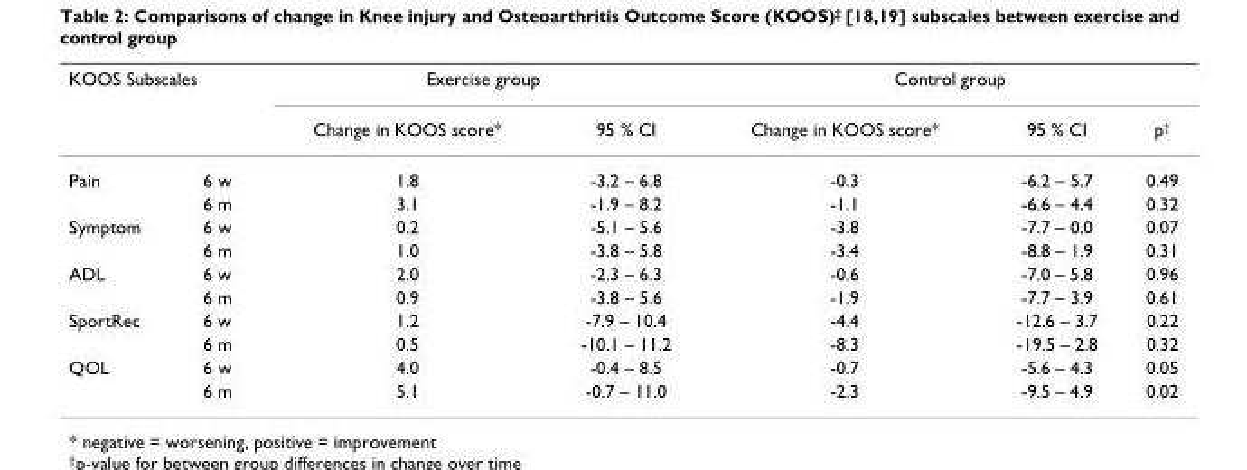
<table><thead><tr><td colspan="2">KOOS Subscales</td><td colspan="2">Exercise group</td><td colspan="3">Control group</td></tr><tr><td></td><td></td><td>Change in KOOS score*</td><td>95 % CI</td><td>Change in KOOS score*</td><td>95 % CI</td><td>p<sup>†</sup></td></tr></thead><tbody><tr><td rowspan="2">Pain</td><td>6 w</td><td>1.8</td><td>-3.2 – 6.8</td><td>-0.3</td><td>-6.2 – 5.7</td><td>0.49</td></tr><tr><td>6 m</td><td>3.1</td><td>-1.9 – 8.2</td><td>-1.1</td><td>-6.6 – 4.4</td><td>0.32</td></tr><tr><td rowspan="2">Symptom</td><td>6 w</td><td>0.2</td><td>-5.1 – 5.6</td><td>-3.8</td><td>-7.7 – 0.0</td><td>0.07</td></tr><tr><td>6 m</td><td>1.0</td><td>-3.8 – 5.8</td><td>-3.4</td><td>-8.8 – 1.9</td><td>0.31</td></tr><tr><td rowspan="2">ADL</td><td>6 w</td><td>2.0</td><td>-2.3 – 6.3</td><td>-0.6</td><td>-7.0 – 5.8</td><td>0.96</td></tr><tr><td>6 m</td><td>0.9</td><td>-3.8 – 5.6</td><td>-1.9</td><td>-7.7 – 3.9</td><td>0.61</td></tr><tr><td rowspan="2">SportRec</td><td>6 w</td><td>1.2</td><td>-7.9 – 10.4</td><td>-4.4</td><td>-12.6 – 3.7</td><td>0.22</td></tr><tr><td>6 m</td><td>0.5</td><td>-10.1 – 11.2</td><td>-8.3</td><td>-19.5 – 2.8</td><td>0.32</td></tr><tr><td rowspan="2">QOL</td><td>6 w</td><td>4.0</td><td>-0.4 – 8.5</td><td>-0.7</td><td>-5.6 – 4.3</td><td>0.05</td></tr><tr><td>6 m</td><td>5.1</td><td>-0.7 – 11.0</td><td>-2.3</td><td>-9.5 – 4.9</td><td>0.02</td></tr></tbody></table>